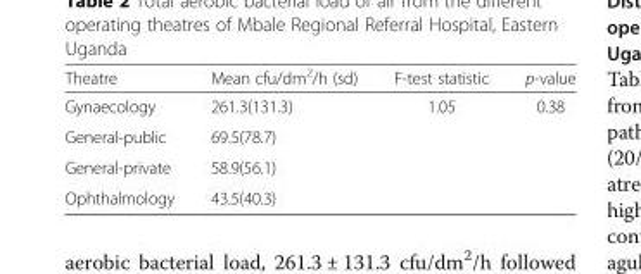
<table><thead><tr><td>Theatre</td><td>Mean cfu/dm<sup>2</sup>/h (sd)</td><td>F-test statistic</td><td>p-value</td></tr></thead><tbody><tr><td>Gynaecology</td><td>261.3(131.3)</td><td rowspan="4">1.05</td><td rowspan="4">0.38</td></tr><tr><td>General-public</td><td>69.5(78.7)</td></tr><tr><td>General-private</td><td>58.9(56.1)</td></tr><tr><td>Ophthalmology</td><td>43.5(40.3)</td></tr></tbody></table>